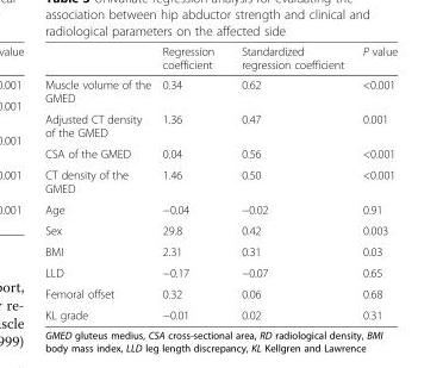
<table><thead><tr><td></td><td>Regression coefficient</td><td>Standardized regression coefficient</td><td>P value</td></tr></thead><tbody><tr><td>Muscle volume of the GMED</td><td>0.34</td><td>0.62</td><td>&lt;0.001</td></tr><tr><td>Adjusted CT density of the GMED</td><td>1.36</td><td>0.47</td><td>0.001</td></tr><tr><td>CSA of the GMED</td><td>0.04</td><td>0.56</td><td>&lt;0.001</td></tr><tr><td>CT density of the GMED</td><td>1.46</td><td>0.50</td><td>&lt;0.001</td></tr><tr><td>Age</td><td>−0.04</td><td>−0.02</td><td>0.91</td></tr><tr><td>Sex</td><td>29.8</td><td>0.42</td><td>0.003</td></tr><tr><td>BMI</td><td>2.31</td><td>0.31</td><td>0.03</td></tr><tr><td>LLD</td><td>−0.17</td><td>−0.07</td><td>0.65</td></tr><tr><td>Femoral offset</td><td>0.32</td><td>0.06</td><td>0.68</td></tr><tr><td>KL grade</td><td>−0.01</td><td>0.02</td><td>0.31</td></tr></tbody></table>